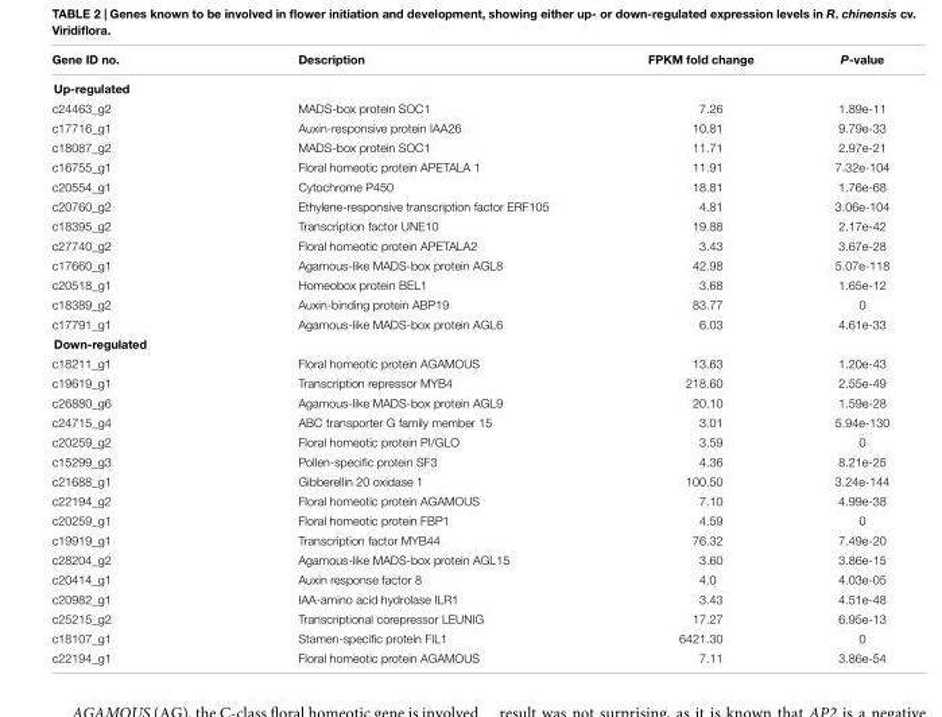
<table><thead><tr><td>Gene ID no.</td><td>Description</td><td>FPKM fold change</td><td>P-value</td></tr></thead><tbody><tr><td colspan="4">Up-regulated</td></tr><tr><td>c24463_g2</td><td>MADS-box protein SOC1</td><td>7.26</td><td>1.89e-11</td></tr><tr><td>c17716_g1</td><td>Auxin-responsive protein IAA26</td><td>10.81</td><td>9.79e-33</td></tr><tr><td>c18087_g2</td><td>MADS-box protein SOC1</td><td>11.71</td><td>2.97e-21</td></tr><tr><td>c16755_g1</td><td>Floral homeotic protein APETALA 1</td><td>11.91</td><td>7.32e-104</td></tr><tr><td>c20554_g1</td><td>Cytochrome P450</td><td>18.81</td><td>1.76e-68</td></tr><tr><td>c20760_g2</td><td>Ethylene-responsive transcription factor ERF105</td><td>4.81</td><td>3.06e-104</td></tr><tr><td>c18395_g2</td><td>Transcription factor UNE10</td><td>19.88</td><td>2.17e-42</td></tr><tr><td>c27740_g2</td><td>Floral homeotic protein APETALA2</td><td>3.43</td><td>3.67e-28</td></tr><tr><td>c17660_g1</td><td>Agamous-like MADS-box protein AGL8</td><td>42.98</td><td>5.07e-118</td></tr><tr><td>c20518_g1</td><td>Homeobox protein BEL1</td><td>3.68</td><td>1.65e-12</td></tr><tr><td>c18389_g2</td><td>Auxin-binding protein ABP19</td><td>83.77</td><td>0</td></tr><tr><td>c17791_g1</td><td>Agamous-like MADS-box protein AGL6</td><td>6.03</td><td>4.61e-33</td></tr><tr><td colspan="4">Down-regulated</td></tr><tr><td>c18211_g1</td><td>Floral homeotic protein AGAMOUS</td><td>13.63</td><td>1.20e-43</td></tr><tr><td>c19619_g1</td><td>Transcription repressor MYB4</td><td>218.60</td><td>2.55e-49</td></tr><tr><td>c26880_g6</td><td>Agamous-like MADS-box protein AGL9</td><td>20.10</td><td>1.59e-28</td></tr><tr><td>c24715_g4</td><td>ABC transporter G family member 15</td><td>3.01</td><td>5.94e-130</td></tr><tr><td>c20259_g2</td><td>Floral homeotic protein PI/GLO</td><td>3.59</td><td>0</td></tr><tr><td>c15299_g3</td><td>Pollen-specific protein SF3</td><td>4.36</td><td>8.21e-25</td></tr><tr><td>c21688_g1</td><td>Gibberellin 20 oxidase 1</td><td>100.50</td><td>3.24e-144</td></tr><tr><td>c22194_g2</td><td>Floral homeotic protein AGAMOUS</td><td>7.10</td><td>4.99e-38</td></tr><tr><td>c20259_g1</td><td>Floral homeotic protein FBP1</td><td>4.59</td><td>0</td></tr><tr><td>c19919_g1</td><td>Transcription factor MYB44</td><td>76.32</td><td>7.49e-20</td></tr><tr><td>c28204_g2</td><td>Agamous-like MADS-box protein AGL15</td><td>3.60</td><td>3.86e-15</td></tr><tr><td>c20414_g1</td><td>Auxin response factor 8</td><td>4.0</td><td>4.03e-05</td></tr><tr><td>c20982_g1</td><td>IAA-amino acid hydrolase ILR1</td><td>3.43</td><td>4.51e-48</td></tr><tr><td>c25215_g2</td><td>Transcriptional corepressor LEUNIG</td><td>17.27</td><td>6.95e-13</td></tr><tr><td>c18107_g1</td><td>Stamen-specific protein FIL1</td><td>6421.30</td><td>0</td></tr><tr><td>c22194_g1</td><td>Floral homeotic protein AGAMOUS</td><td>7.11</td><td>3.86e-54</td></tr></tbody></table>